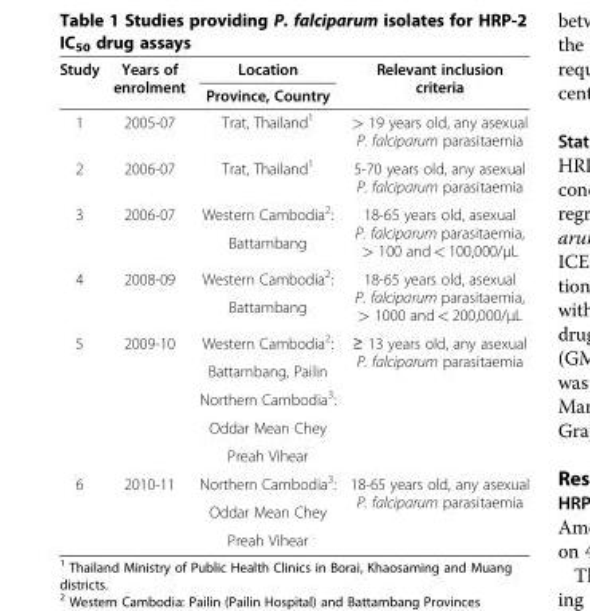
<table><thead><tr><td rowspan="2">Study</td><td rowspan="2">Years of enrolment</td><td rowspan="2">Location Province, Country</td><td rowspan="2">Relevant inclusion criteria</td></tr><tr></tr></thead><tbody><tr><td>1</td><td>2005-07</td><td>Trat, Thailand<sup>1</sup></td><td>&gt; 19 years old, any asexual P. falciparum parasitaemia</td></tr><tr><td>2</td><td>2006-07</td><td>Trat, Thailand<sup>1</sup></td><td>5-70 years old, any asexual P. falciparum parasitaemia</td></tr><tr><td rowspan="2">3</td><td rowspan="2">2006-07</td><td>Western Cambodia<sup>2</sup>:</td><td rowspan="2">18-65 years old, asexual P. falciparum parasitaemia, &gt; 100 and &lt; 100,000/μL</td></tr><tr><td>Battambang</td></tr><tr><td rowspan="2">4</td><td rowspan="2">2008-09</td><td>Western Cambodia<sup>2</sup>:</td><td rowspan="2">18-65 years old, asexual P. falciparum parasitaemia, &gt; 1000 and &lt; 200,000/μL</td></tr><tr><td>Battambang</td></tr><tr><td rowspan="5">5</td><td rowspan="5">2009-10</td><td>Western Cambodia<sup>2</sup>:</td><td rowspan="5">≥ 13 years old, any asexual P. falciparum parasitaemia</td></tr><tr><td>Battambang, Pailin</td></tr><tr><td>Northern Cambodia<sup>3</sup>:</td></tr><tr><td>Oddar Mean Chey</td></tr><tr><td>Preah Vihear</td></tr><tr><td rowspan="3">6</td><td rowspan="3">2010-11</td><td>Northern Cambodia<sup>3</sup>:</td><td rowspan="3">18-65 years old, any asexual P. falciparum parasitaemia</td></tr><tr><td>Oddar Mean Chey</td></tr><tr><td>Preah Vihear</td></tr></tbody></table>